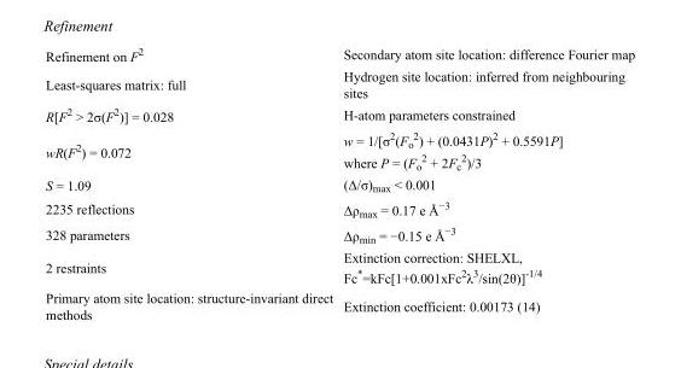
<table><tbody><tr><td>Refinement on F<sup>2</sup></td><td>Secondary atom site location: difference Fourier map</td></tr><tr><td>Least-squares matrix: full</td><td>Hydrogen site location: inferred from neighbouring sites</td></tr><tr><td>R[F<sup>2</sup> &gt; 2σ(F<sup>2</sup>)] = 0.028</td><td>H-atom parameters constrained</td></tr><tr><td>wR(F<sup>2</sup>) = 0.072</td><td>w = 1/[σ<sup>2</sup>(F<sub>o</sub> <sup>2</sup>) + (0.0431P)<sup>2</sup> + 0.5591P] where P = (F<sub>o</sub> <sup>2</sup> + 2F<sub>c</sub> <sup>2</sup>)/3</td></tr><tr><td>S = 1.09</td><td>(Δ/σ)<sub>max</sub> &lt; 0.001</td></tr><tr><td>2235 reflections</td><td>Δρ<sub>max</sub> = 0.17 e Å<sup>−3</sup></td></tr><tr><td>328 parameters</td><td>Δρ<sub>min</sub> = −0.15 e Å<sup>−3</sup></td></tr><tr><td>2 restraints</td><td>Extinction correction: SHELXL, Fc*=kFc[1+0.001xFc<sup>2</sup>λ<sup>3</sup>/sin(2θ)]<sup>-1/4</sup></td></tr><tr><td>Primary atom site location: structure-invariant direct methods</td><td>Extinction coefficient: 0.00173 (14)</td></tr></tbody></table>